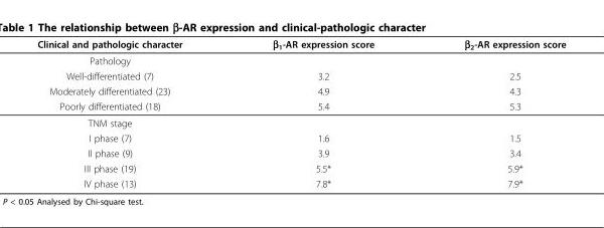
<table><thead><tr><td>Clinical and pathologic character</td><td>β<sub>1</sub>-AR expression score</td><td>β<sub>2</sub>-AR expression score</td></tr></thead><tbody><tr><td colspan="3">Pathology</td></tr><tr><td>Well-differentiated (7)</td><td>3.2</td><td>2.5</td></tr><tr><td>Moderately differentiated (23)</td><td>4.9</td><td>4.3</td></tr><tr><td>Poorly differentiated (18)</td><td>5.4</td><td>5.3</td></tr><tr><td colspan="3">TNM stage</td></tr><tr><td>I phase (7)</td><td>1.6</td><td>1.5</td></tr><tr><td>II phase (9)</td><td>3.9</td><td>3.4</td></tr><tr><td>III phase (19)</td><td>5.5*</td><td>5.9*</td></tr><tr><td>IV phase (13)</td><td>7.8*</td><td>7.9*</td></tr></tbody></table>